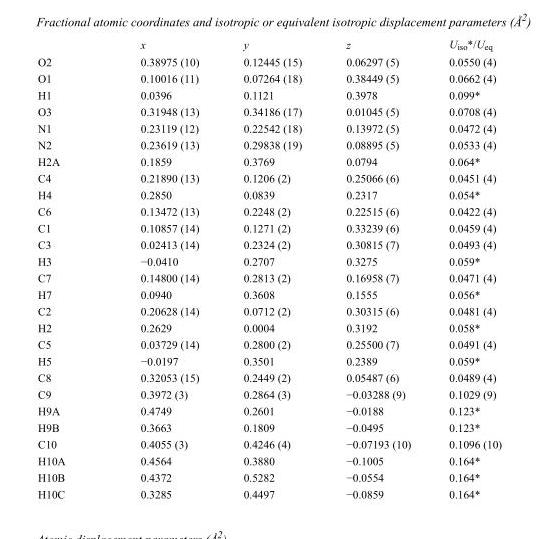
<table><thead><tr><td></td><td>x</td><td>y</td><td>z</td><td>U<sub>iso</sub>*/U<sub>eq</sub></td></tr></thead><tbody><tr><td>O2</td><td>0.38975 (10)</td><td>0.12445 (15)</td><td>0.06297 (5)</td><td>0.0550 (4)</td></tr><tr><td>O1</td><td>0.10016 (11)</td><td>0.07264 (18)</td><td>0.38449 (5)</td><td>0.0662 (4)</td></tr><tr><td>H1</td><td>0.0396</td><td>0.1121</td><td>0.3978</td><td>0.099*</td></tr><tr><td>O3</td><td>0.31948 (13)</td><td>0.34186 (17)</td><td>0.01045 (5)</td><td>0.0708 (4)</td></tr><tr><td>N1</td><td>0.23119 (12)</td><td>0.22542 (18)</td><td>0.13972 (5)</td><td>0.0472 (4)</td></tr><tr><td>N2</td><td>0.23619 (13)</td><td>0.29838 (19)</td><td>0.08895 (5)</td><td>0.0533 (4)</td></tr><tr><td>H2A</td><td>0.1859</td><td>0.3769</td><td>0.0794</td><td>0.064*</td></tr><tr><td>C4</td><td>0.21890 (13)</td><td>0.1206 (2)</td><td>0.25066 (6)</td><td>0.0451 (4)</td></tr><tr><td>H4</td><td>0.2850</td><td>0.0839</td><td>0.2317</td><td>0.054*</td></tr><tr><td>C6</td><td>0.13472 (13)</td><td>0.2248 (2)</td><td>0.22515 (6)</td><td>0.0422 (4)</td></tr><tr><td>C1</td><td>0.10857 (14)</td><td>0.1271 (2)</td><td>0.33239 (6)</td><td>0.0459 (4)</td></tr><tr><td>C3</td><td>0.02413 (14)</td><td>0.2324 (2)</td><td>0.30815 (7)</td><td>0.0493 (4)</td></tr><tr><td>H3</td><td>−0.0410</td><td>0.2707</td><td>0.3275</td><td>0.059*</td></tr><tr><td>C7</td><td>0.14800 (14)</td><td>0.2813 (2)</td><td>0.16958 (7)</td><td>0.0471 (4)</td></tr><tr><td>H7</td><td>0.0940</td><td>0.3608</td><td>0.1555</td><td>0.056*</td></tr><tr><td>C2</td><td>0.20628 (14)</td><td>0.0712 (2)</td><td>0.30315 (6)</td><td>0.0481 (4)</td></tr><tr><td>H2</td><td>0.2629</td><td>0.0004</td><td>0.3192</td><td>0.058*</td></tr><tr><td>C5</td><td>0.03729 (14)</td><td>0.2800 (2)</td><td>0.25500 (7)</td><td>0.0491 (4)</td></tr><tr><td>H5</td><td>−0.0197</td><td>0.3501</td><td>0.2389</td><td>0.059*</td></tr><tr><td>C8</td><td>0.32053 (15)</td><td>0.2449 (2)</td><td>0.05487 (6)</td><td>0.0489 (4)</td></tr><tr><td>C9</td><td>0.3972 (3)</td><td>0.2864 (3)</td><td>−0.03288 (9)</td><td>0.1029 (9)</td></tr><tr><td>H9A</td><td>0.4749</td><td>0.2601</td><td>−0.0188</td><td>0.123*</td></tr><tr><td>H9B</td><td>0.3663</td><td>0.1809</td><td>−0.0495</td><td>0.123*</td></tr><tr><td>C10</td><td>0.4055 (3)</td><td>0.4246 (4)</td><td>−0.07193 (10)</td><td>0.1096 (10)</td></tr><tr><td>H10A</td><td>0.4564</td><td>0.3880</td><td>−0.1005</td><td>0.164*</td></tr><tr><td>H10B</td><td>0.4372</td><td>0.5282</td><td>−0.0554</td><td>0.164*</td></tr><tr><td>H10C</td><td>0.3285</td><td>0.4497</td><td>−0.0859</td><td>0.164*</td></tr></tbody></table>